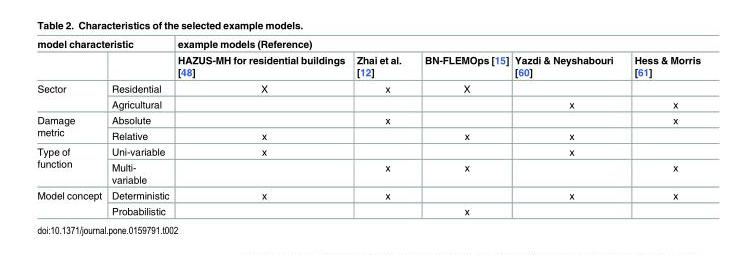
<table><thead><tr><td colspan="2">model characteristic</td><td colspan="5">example models (Reference)</td></tr><tr><td></td><td></td><td>HAZUS-MH for residential buildings [48]</td><td>Zhai et al. [12]</td><td>BN-FLEMOps [15]</td><td>Yazdi &amp; Neyshabouri [60]</td><td>Hess &amp; Morris [61]</td></tr></thead><tbody><tr><td rowspan="2">Sector</td><td>Residential</td><td>X</td><td>x</td><td>X</td><td></td><td></td></tr><tr><td>Agricultural</td><td></td><td></td><td></td><td>x</td><td>x</td></tr><tr><td rowspan="2">Damage metric</td><td>Absolute</td><td></td><td>x</td><td></td><td></td><td>x</td></tr><tr><td>Relative</td><td>x</td><td></td><td>x</td><td>x</td><td></td></tr><tr><td rowspan="2">Type of function</td><td>Uni-variable</td><td>x</td><td></td><td></td><td>x</td><td></td></tr><tr><td>Multi- variable</td><td></td><td>x</td><td>x</td><td></td><td>x</td></tr><tr><td rowspan="2">Model concept</td><td>Deterministic</td><td>x</td><td>x</td><td></td><td>x</td><td>x</td></tr><tr><td>Probabilistic</td><td></td><td></td><td>x</td><td></td><td></td></tr></tbody></table>